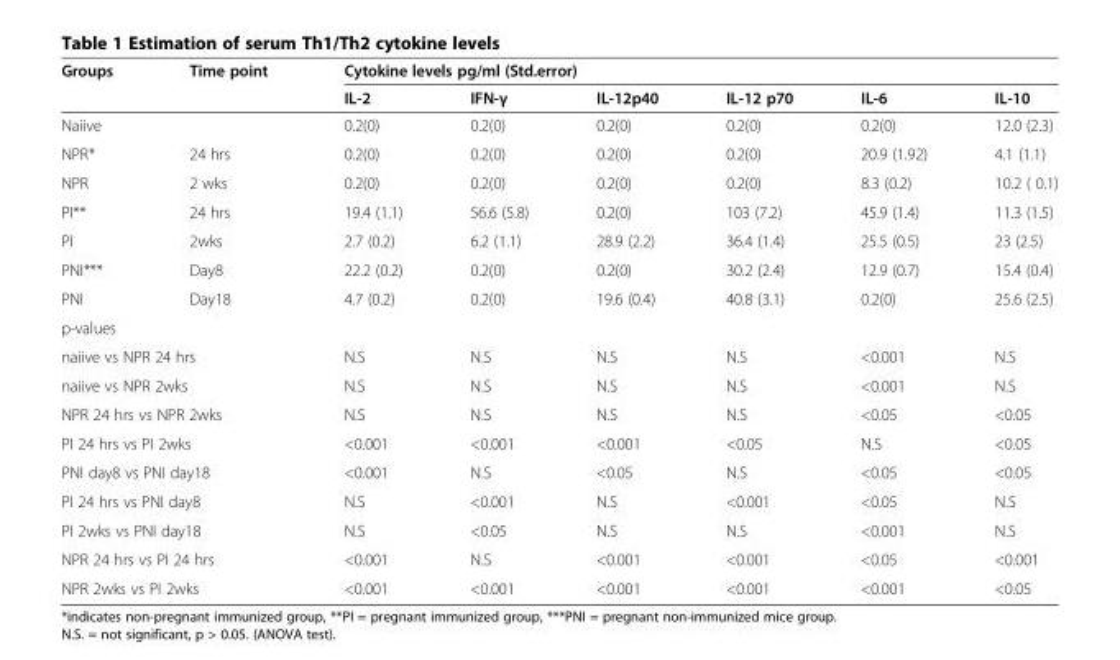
<table><thead><tr><td rowspan="2">Groups</td><td rowspan="2">Time point</td><td colspan="6">Cytokine levels pg/ml (Std.error)</td></tr><tr><td>IL-2</td><td>IFN-γ</td><td>IL-12p40</td><td>IL-12 p70</td><td>IL-6</td><td>IL-10</td></tr></thead><tbody><tr><td>Naiive</td><td></td><td>0.2(0)</td><td>0.2(0)</td><td>0.2(0)</td><td>0.2(0)</td><td>0.2(0)</td><td>12.0 (2.3)</td></tr><tr><td>NPR*</td><td>24 hrs</td><td>0.2(0)</td><td>0.2(0)</td><td>0.2(0)</td><td>0.2(0)</td><td>20.9 (1.92)</td><td>4.1 (1.1)</td></tr><tr><td>NPR</td><td>2 wks</td><td>0.2(0)</td><td>0.2(0)</td><td>0.2(0)</td><td>0.2(0)</td><td>8.3 (0.2)</td><td>10.2 ( 0.1)</td></tr><tr><td>PI**</td><td>24 hrs</td><td>19.4 (1.1)</td><td>56.6 (5.8)</td><td>0.2(0)</td><td>103 (7.2)</td><td>45.9 (1.4)</td><td>11.3 (1.5)</td></tr><tr><td>PI</td><td>2wks</td><td>2.7 (0.2)</td><td>6.2 (1.1)</td><td>28.9 (2.2)</td><td>36.4 (1.4)</td><td>25.5 (0.5)</td><td>23 (2.5)</td></tr><tr><td>PNI***</td><td>Day8</td><td>22.2 (0.2)</td><td>0.2(0)</td><td>0.2(0)</td><td>30.2 (2.4)</td><td>12.9 (0.7)</td><td>15.4 (0.4)</td></tr><tr><td>PNI</td><td>Day18</td><td>4.7 (0.2)</td><td>0.2(0)</td><td>19.6 (0.4)</td><td>40.8 (3.1)</td><td>0.2(0)</td><td>25.6 (2.5)</td></tr><tr><td colspan="8">p-values</td></tr><tr><td colspan="2">naiive vs NPR 24 hrs</td><td>N.S</td><td>N.S</td><td>N.S</td><td>N.S</td><td>&lt;0.001</td><td>N.S</td></tr><tr><td colspan="2">naiive vs NPR 2wks</td><td>N.S</td><td>N.S</td><td>N.S</td><td>N.S</td><td>&lt;0.001</td><td>N.S</td></tr><tr><td colspan="2">NPR 24 hrs vs NPR 2wks</td><td>N.S</td><td>N.S</td><td>N.S</td><td>N.S</td><td>&lt;0.05</td><td>&lt;0.05</td></tr><tr><td colspan="2">PI 24 hrs vs PI 2wks</td><td>&lt;0.001</td><td>&lt;0.001</td><td>&lt;0.001</td><td>&lt;0.05</td><td>N.S</td><td>&lt;0.05</td></tr><tr><td colspan="2">PNI day8 vs PNI day18</td><td>&lt;0.001</td><td>N.S</td><td>&lt;0.05</td><td>N.S</td><td>&lt;0.05</td><td>&lt;0.05</td></tr><tr><td colspan="2">PI 24 hrs vs PNI day8</td><td>N.S</td><td>&lt;0.001</td><td>N.S</td><td>&lt;0.001</td><td>&lt;0.05</td><td>N.S</td></tr><tr><td colspan="2">PI 2wks vs PNI day18</td><td>N.S</td><td>&lt;0.05</td><td>N.S</td><td>N.S</td><td>&lt;0.001</td><td>N.S</td></tr><tr><td colspan="2">NPR 24 hrs vs PI 24 hrs</td><td>&lt;0.001</td><td>N.S</td><td>&lt;0.001</td><td>&lt;0.001</td><td>&lt;0.05</td><td>&lt;0.001</td></tr><tr><td colspan="2">NPR 2wks vs PI 2wks</td><td>&lt;0.001</td><td>&lt;0.001</td><td>&lt;0.001</td><td>&lt;0.001</td><td>&lt;0.001</td><td>&lt;0.05</td></tr></tbody></table>